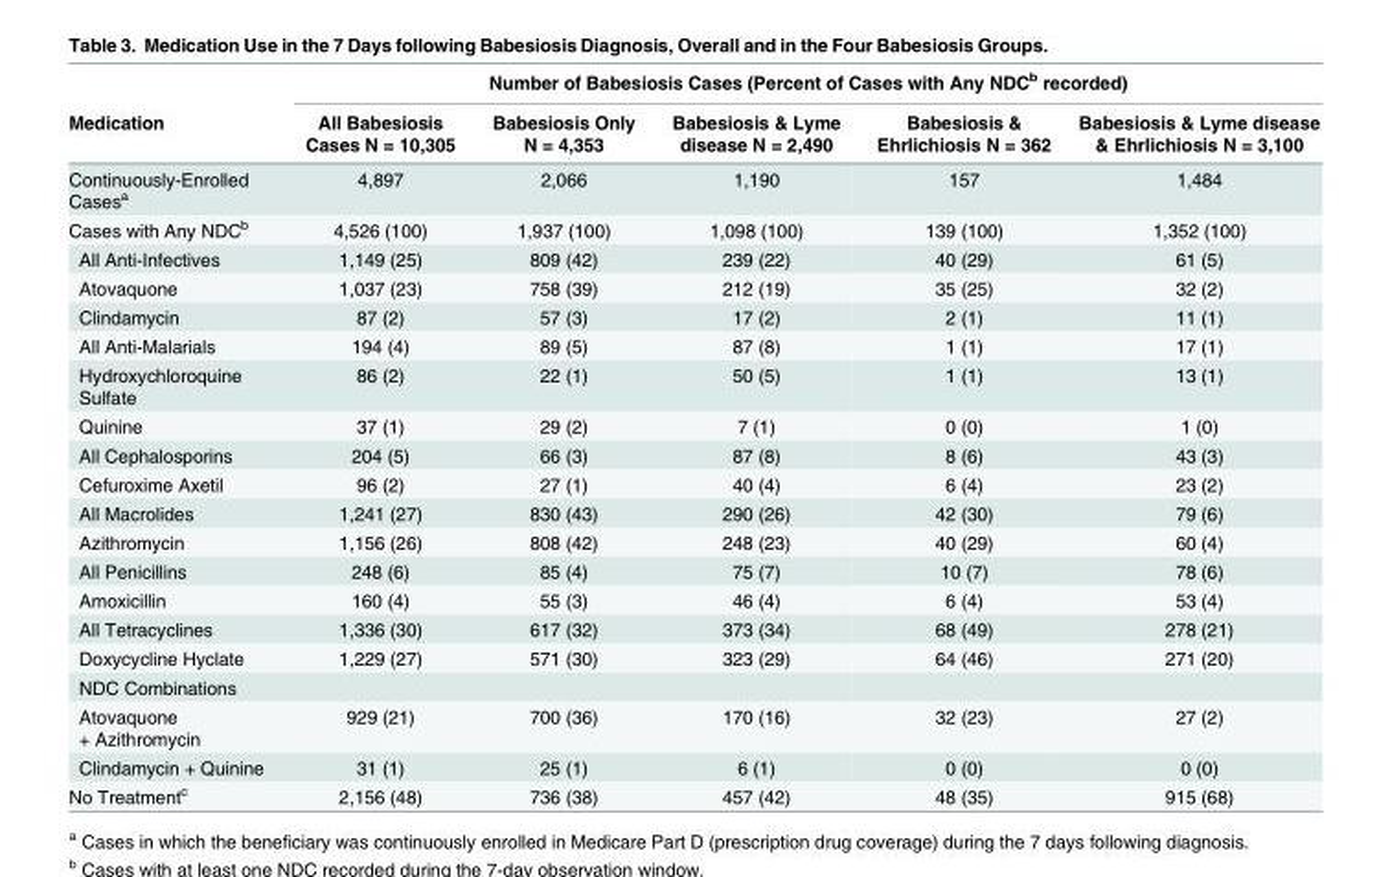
<table><thead><tr><td rowspan="2">Medication</td><td colspan="5">Number of Babesiosis Cases (Percent of Cases with Any NDC<sup>b</sup> recorded)</td></tr><tr><td>All Babesiosis Cases N = 10,305</td><td>Babesiosis Only N = 4,353</td><td>Babesiosis &amp; Lyme disease N = 2,490</td><td>Babesiosis &amp; Ehrlichiosis N = 362</td><td>Babesiosis &amp; Lyme disease &amp; Ehrlichiosis N = 3,100</td></tr></thead><tbody><tr><td>Continuously-Enrolled Cases<sup>a</sup></td><td>4,897</td><td>2,066</td><td>1,190</td><td>157</td><td>1,484</td></tr><tr><td>Cases with Any NDC<sup>b</sup></td><td>4,526 (100)</td><td>1,937 (100)</td><td>1,098 (100)</td><td>139 (100)</td><td>1,352 (100)</td></tr><tr><td>All Anti-Infectives</td><td>1,149 (25)</td><td>809 (42)</td><td>239 (22)</td><td>40 (29)</td><td>61 (5)</td></tr><tr><td>Atovaquone</td><td>1,037 (23)</td><td>758 (39)</td><td>212 (19)</td><td>35 (25)</td><td>32 (2)</td></tr><tr><td>Clindamycin</td><td>87 (2)</td><td>57 (3)</td><td>17 (2)</td><td>2 (1)</td><td>11 (1)</td></tr><tr><td>All Anti-Malarials</td><td>194 (4)</td><td>89 (5)</td><td>87 (8)</td><td>1 (1)</td><td>17 (1)</td></tr><tr><td>Hydroxychloroquine Sulfate</td><td>86 (2)</td><td>22 (1)</td><td>50 (5)</td><td>1 (1)</td><td>13 (1)</td></tr><tr><td>Quinine</td><td>37 (1)</td><td>29 (2)</td><td>7 (1)</td><td>0 (0)</td><td>1 (0)</td></tr><tr><td>All Cephalosporins</td><td>204 (5)</td><td>66 (3)</td><td>87 (8)</td><td>8 (6)</td><td>43 (3)</td></tr><tr><td>Cefuroxime Axetil</td><td>96 (2)</td><td>27 (1)</td><td>40 (4)</td><td>6 (4)</td><td>23 (2)</td></tr><tr><td>All Macrolides</td><td>1,241 (27)</td><td>830 (43)</td><td>290 (26)</td><td>42 (30)</td><td>79 (6)</td></tr><tr><td>Azithromycin</td><td>1,156 (26)</td><td>808 (42)</td><td>248 (23)</td><td>40 (29)</td><td>60 (4)</td></tr><tr><td>All Penicillins</td><td>248 (6)</td><td>85 (4)</td><td>75 (7)</td><td>10 (7)</td><td>78 (6)</td></tr><tr><td>Amoxicillin</td><td>160 (4)</td><td>55 (3)</td><td>46 (4)</td><td>6 (4)</td><td>53 (4)</td></tr><tr><td>All Tetracyclines</td><td>1,336 (30)</td><td>617 (32)</td><td>373 (34)</td><td>68 (49)</td><td>278 (21)</td></tr><tr><td>Doxycycline Hyclate</td><td>1,229 (27)</td><td>571 (30)</td><td>323 (29)</td><td>64 (46)</td><td>271 (20)</td></tr><tr><td colspan="6">NDC Combinations</td></tr><tr><td>Atovaquone + Azithromycin</td><td>929 (21)</td><td>700 (36)</td><td>170 (16)</td><td>32 (23)</td><td>27 (2)</td></tr><tr><td>Clindamycin + Quinine</td><td>31 (1)</td><td>25 (1)</td><td>6 (1)</td><td>0 (0)</td><td>0 (0)</td></tr><tr><td>No Treatment<sup>c</sup></td><td>2,156 (48)</td><td>736 (38)</td><td>457 (42)</td><td>48 (35)</td><td>915 (68)</td></tr></tbody></table>